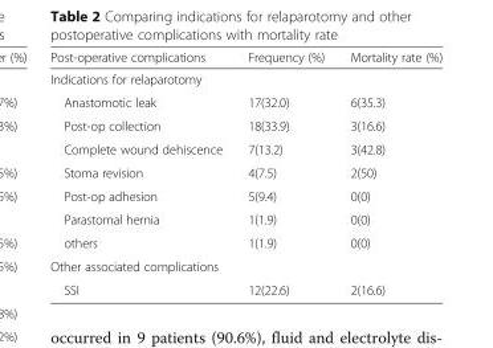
<table><thead><tr><td>Post-operative complications</td><td>Frequency (%)</td><td>Mortality rate (%)</td></tr></thead><tbody><tr><td colspan="3">Indications for relaparotomy</td></tr><tr><td>Anastomotic leak</td><td>17(32.0)</td><td>6(35.3)</td></tr><tr><td>Post-op collection</td><td>18(33.9)</td><td>3(16.6)</td></tr><tr><td>Complete wound dehiscence</td><td>7(13.2)</td><td>3(42.8)</td></tr><tr><td>Stoma revision</td><td>4(7.5)</td><td>2(50)</td></tr><tr><td>Post-op adhesion</td><td>5(9.4)</td><td>0(0)</td></tr><tr><td>Parastomal hernia</td><td>1(1.9)</td><td>0(0)</td></tr><tr><td>others</td><td>1(1.9)</td><td>0(0)</td></tr><tr><td colspan="3">Other associated complications</td></tr><tr><td>SSI</td><td>12(22.6)</td><td>2(16.6)</td></tr></tbody></table>